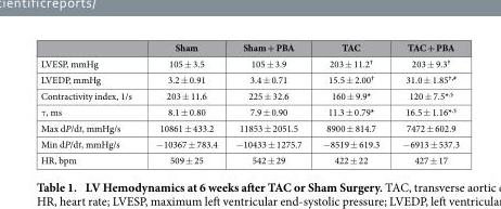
<table><thead><tr><td></td><td>Sham</td><td>Sham + PBA</td><td>TAC</td><td>TAC + PBA</td></tr></thead><tbody><tr><td>LVESP, mmHg</td><td>105 ± 3.5</td><td>105 ± 3.9</td><td>203 ± 11.2†</td><td>203 ± 9.3†</td></tr><tr><td>LVEDP, mmHg</td><td>3.2 ± 0.91</td><td>3.4 ± 0.71</td><td>15.5 ± 2.00†</td><td>31.0 ± 1.85†,#</td></tr><tr><td>Contractivity index, 1/s</td><td>203 ± 11.6</td><td>225 ± 32.6</td><td>160 ± 9.9*</td><td>120 ± 7.5*,§</td></tr><tr><td>τ , ms</td><td>8.1 ± 0.80</td><td>7.9 ± 0.90</td><td>11.3 ± 0.79*</td><td>16.5 ± 1.16*,§</td></tr><tr><td>Max dP/dt, mmHg/s</td><td>10861 ± 433.2</td><td>11853 ± 2051.5</td><td>8900 ± 814.7</td><td>7472 ± 602.9</td></tr><tr><td>Min dP/dt, mmHg/s</td><td>− 10367 ± 783.4</td><td>− 10433 ± 1275.7</td><td>− 8519 ± 619.3</td><td>− 6913 ± 537.3</td></tr><tr><td>HR, bpm</td><td>509 ± 25</td><td>542 ± 29</td><td>422 ± 22</td><td>427 ± 17</td></tr></tbody></table>